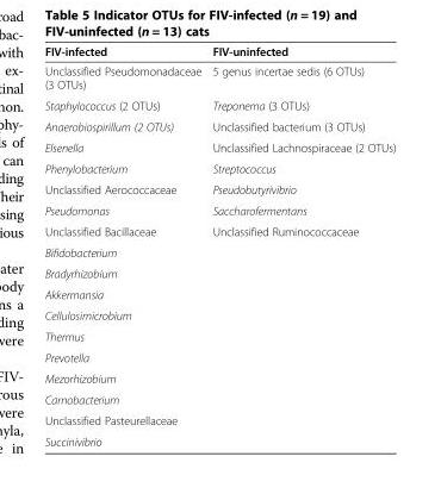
<table><thead><tr><td>FIV-infected</td><td>FIV-uninfected</td></tr></thead><tbody><tr><td>Unclassified Pseudomonadaceae (3 OTUs)</td><td>5 genus incertae sedis (6 OTUs)</td></tr><tr><td>Staphylococcus (2 OTUs)</td><td>Treponema (3 OTUs)</td></tr><tr><td>Anaerobiospirillum (2 OTUs)</td><td>Unclassified bacterium (3 OTUs)</td></tr><tr><td>Elsenella</td><td>Unclassified Lachnospiraceae (2 OTUs)</td></tr><tr><td>Phenylobacterium</td><td>Streptococcus</td></tr><tr><td>Unclassified Aerococcaceae</td><td>Pseudobutyrivibrio</td></tr><tr><td>Pseudomonas</td><td>Saccharofermentans</td></tr><tr><td>Unclassified Bacillaceae</td><td>Unclassified Ruminococcaceae</td></tr><tr><td colspan="2">Bifidobacterium</td></tr><tr><td colspan="2">Bradyrhizobium</td></tr><tr><td colspan="2">Akkermansia</td></tr><tr><td colspan="2">Cellulosimicrobium</td></tr><tr><td colspan="2">Thermus</td></tr><tr><td colspan="2">Prevotella</td></tr><tr><td colspan="2">Mezorhizobium</td></tr><tr><td colspan="2">Carnobacterium</td></tr><tr><td colspan="2">Unclassified Pasteurellaceae</td></tr><tr><td>Succinivibrio</td><td></td></tr></tbody></table>